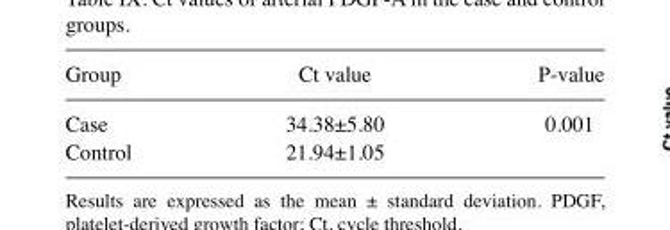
<table><thead><tr><td>Group</td><td>Ct value</td><td>P-value</td></tr></thead><tbody><tr><td>Case</td><td>34.38±5.80</td><td>0.001</td></tr><tr><td>Control</td><td>21.94±1.05</td><td></td></tr></tbody></table>